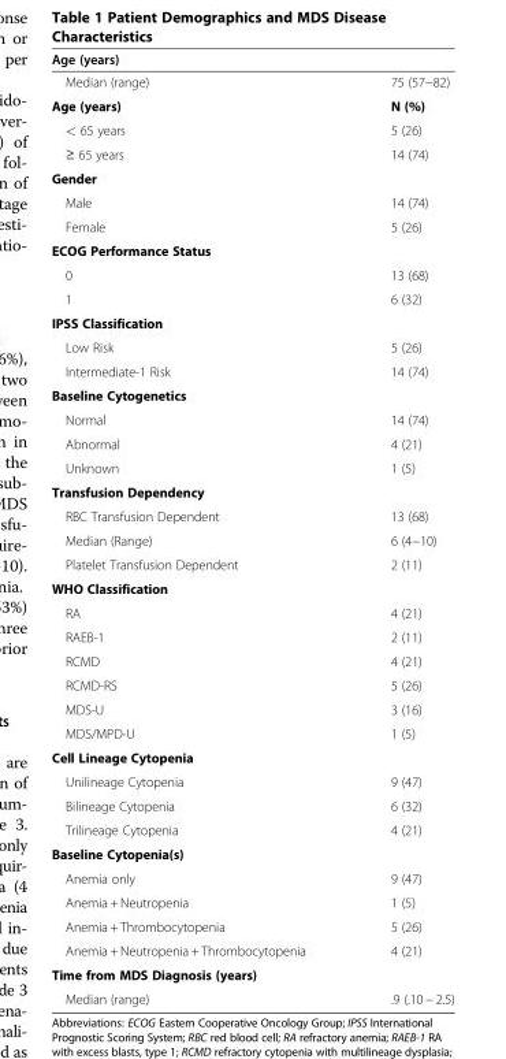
<table><thead><tr><td colspan="2">Age (years)</td></tr><tr><td>Median (range)</td><td>75 (57−82)</td></tr></thead><tbody><tr><td>Age (years)</td><td>N (%)</td></tr><tr><td>&lt; 65 years</td><td>5 (26)</td></tr><tr><td>≥ 65 years</td><td>14 (74)</td></tr><tr><td colspan="2">Gender</td></tr><tr><td>Male</td><td>14 (74)</td></tr><tr><td>Female</td><td>5 (26)</td></tr><tr><td colspan="2">ECOG Performance Status</td></tr><tr><td>0</td><td>13 (68)</td></tr><tr><td>1</td><td>6 (32)</td></tr><tr><td colspan="2">IPSS Classification</td></tr><tr><td>Low Risk</td><td>5 (26)</td></tr><tr><td>Intermediate-1 Risk</td><td>14 (74)</td></tr><tr><td colspan="2">Baseline Cytogenetics</td></tr><tr><td>Normal</td><td>14 (74)</td></tr><tr><td>Abnormal</td><td>4 (21)</td></tr><tr><td>Unknown</td><td>1 (5)</td></tr><tr><td colspan="2">Transfusion Dependency</td></tr><tr><td>RBC Transfusion Dependent</td><td>13 (68)</td></tr><tr><td>Median (Range)</td><td>6 (4−10)</td></tr><tr><td>Platelet Transfusion Dependent</td><td>2 (11)</td></tr><tr><td colspan="2">WHO Classification</td></tr><tr><td>RA</td><td>4 (21)</td></tr><tr><td>RAEB-1</td><td>2 (11)</td></tr><tr><td>RCMD</td><td>4 (21)</td></tr><tr><td>RCMD-RS</td><td>5 (26)</td></tr><tr><td>MDS-U</td><td>3 (16)</td></tr><tr><td>MDS/MPD-U</td><td>1 (5)</td></tr><tr><td colspan="2">Cell Lineage Cytopenia</td></tr><tr><td>Unilineage Cytopenia</td><td>9 (47)</td></tr><tr><td>Bilineage Cytopenia</td><td>6 (32)</td></tr><tr><td>Trilineage Cytopenia</td><td>4 (21)</td></tr><tr><td colspan="2">Baseline Cytopenia(s)</td></tr><tr><td>Anemia only</td><td>9 (47)</td></tr><tr><td>Anemia + Neutropenia</td><td>1 (5)</td></tr><tr><td>Anemia + Thrombocytopenia</td><td>5 (26)</td></tr><tr><td>Anemia + Neutropenia + Thrombocytopenia</td><td>4 (21)</td></tr><tr><td colspan="2">Time from MDS Diagnosis (years)</td></tr><tr><td>Median (range)</td><td>.9 (.10 − 2.5)</td></tr></tbody></table>